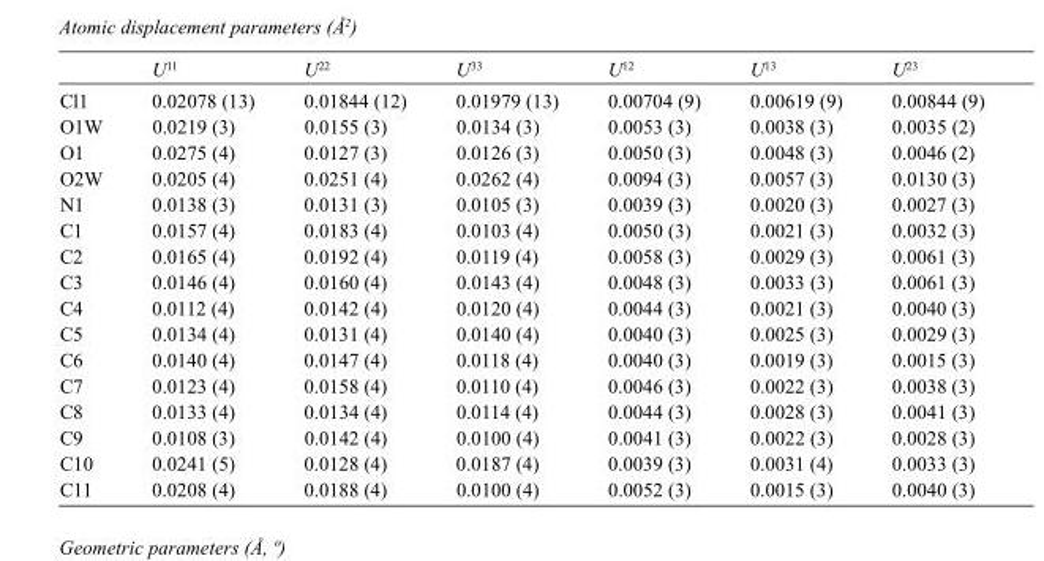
<table><thead><tr><td></td><td>U<sup>11</sup></td><td>U<sup>22</sup></td><td>U<sup>33</sup></td><td>U<sup>12</sup></td><td>U<sup>13</sup></td><td>U<sup>23</sup></td></tr></thead><tbody><tr><td>Cl1</td><td>0.02078 (13)</td><td>0.01844 (12)</td><td>0.01979 (13)</td><td>0.00704 (9)</td><td>0.00619 (9)</td><td>0.00844 (9)</td></tr><tr><td>O1W</td><td>0.0219 (3)</td><td>0.0155 (3)</td><td>0.0134 (3)</td><td>0.0053 (3)</td><td>0.0038 (3)</td><td>0.0035 (2)</td></tr><tr><td>O1</td><td>0.0275 (4)</td><td>0.0127 (3)</td><td>0.0126 (3)</td><td>0.0050 (3)</td><td>0.0048 (3)</td><td>0.0046 (2)</td></tr><tr><td>O2W</td><td>0.0205 (4)</td><td>0.0251 (4)</td><td>0.0262 (4)</td><td>0.0094 (3)</td><td>0.0057 (3)</td><td>0.0130 (3)</td></tr><tr><td>N1</td><td>0.0138 (3)</td><td>0.0131 (3)</td><td>0.0105 (3)</td><td>0.0039 (3)</td><td>0.0020 (3)</td><td>0.0027 (3)</td></tr><tr><td>C1</td><td>0.0157 (4)</td><td>0.0183 (4)</td><td>0.0103 (4)</td><td>0.0050 (3)</td><td>0.0021 (3)</td><td>0.0032 (3)</td></tr><tr><td>C2</td><td>0.0165 (4)</td><td>0.0192 (4)</td><td>0.0119 (4)</td><td>0.0058 (3)</td><td>0.0029 (3)</td><td>0.0061 (3)</td></tr><tr><td>C3</td><td>0.0146 (4)</td><td>0.0160 (4)</td><td>0.0143 (4)</td><td>0.0048 (3)</td><td>0.0033 (3)</td><td>0.0061 (3)</td></tr><tr><td>C4</td><td>0.0112 (4)</td><td>0.0142 (4)</td><td>0.0120 (4)</td><td>0.0044 (3)</td><td>0.0021 (3)</td><td>0.0040 (3)</td></tr><tr><td>C5</td><td>0.0134 (4)</td><td>0.0131 (4)</td><td>0.0140 (4)</td><td>0.0040 (3)</td><td>0.0025 (3)</td><td>0.0029 (3)</td></tr><tr><td>C6</td><td>0.0140 (4)</td><td>0.0147 (4)</td><td>0.0118 (4)</td><td>0.0040 (3)</td><td>0.0019 (3)</td><td>0.0015 (3)</td></tr><tr><td>C7</td><td>0.0123 (4)</td><td>0.0158 (4)</td><td>0.0110 (4)</td><td>0.0046 (3)</td><td>0.0022 (3)</td><td>0.0038 (3)</td></tr><tr><td>C8</td><td>0.0133 (4)</td><td>0.0134 (4)</td><td>0.0114 (4)</td><td>0.0044 (3)</td><td>0.0028 (3)</td><td>0.0041 (3)</td></tr><tr><td>C9</td><td>0.0108 (3)</td><td>0.0142 (4)</td><td>0.0100 (4)</td><td>0.0041 (3)</td><td>0.0022 (3)</td><td>0.0028 (3)</td></tr><tr><td>C10</td><td>0.0241 (5)</td><td>0.0128 (4)</td><td>0.0187 (4)</td><td>0.0039 (3)</td><td>0.0031 (4)</td><td>0.0033 (3)</td></tr><tr><td>C11</td><td>0.0208 (4)</td><td>0.0188 (4)</td><td>0.0100 (4)</td><td>0.0052 (3)</td><td>0.0015 (3)</td><td>0.0040 (3)</td></tr></tbody></table>